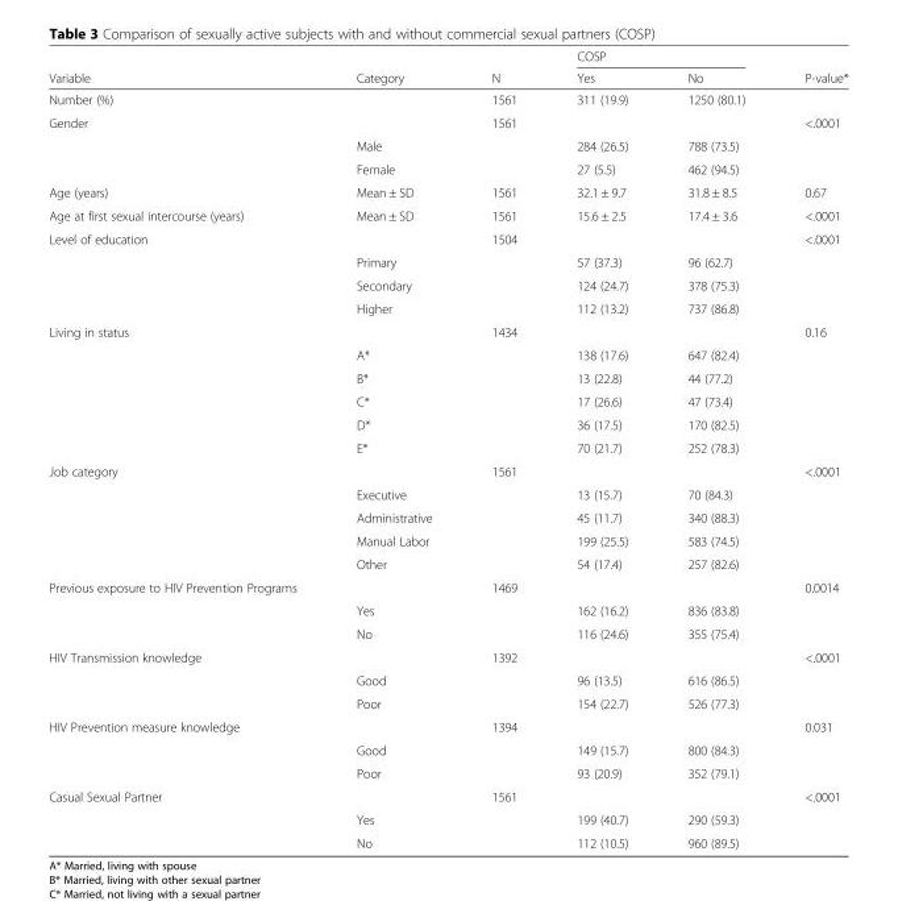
<table><thead><tr><td rowspan="2">Variable</td><td rowspan="2">Category</td><td rowspan="2">N</td><td colspan="2">COSP</td><td rowspan="2">P-value*</td></tr><tr><td>Yes</td><td>No</td></tr></thead><tbody><tr><td>Number (%)</td><td></td><td>1561</td><td>311 (19.9)</td><td>1250 (80.1)</td><td></td></tr><tr><td rowspan="3">Gender</td><td></td><td>1561</td><td></td><td></td><td>&lt;.0001</td></tr><tr><td>Male</td><td></td><td>284 (26.5)</td><td>788 (73.5)</td><td></td></tr><tr><td>Female</td><td></td><td>27 (5.5)</td><td>462 (94.5)</td><td></td></tr><tr><td>Age (years)</td><td>Mean ± SD</td><td>1561</td><td>32.1 ± 9.7</td><td>31.8 ± 8.5</td><td>0.67</td></tr><tr><td>Age at first sexual intercourse (years)</td><td>Mean ± SD</td><td>1561</td><td>15.6 ± 2.5</td><td>17.4 ± 3.6</td><td>&lt;.0001</td></tr><tr><td rowspan="4">Level of education</td><td></td><td>1504</td><td></td><td></td><td>&lt;.0001</td></tr><tr><td>Primary</td><td></td><td>57 (37.3)</td><td>96 (62.7)</td><td></td></tr><tr><td>Secondary</td><td></td><td>124 (24.7)</td><td>378 (75.3)</td><td></td></tr><tr><td>Higher</td><td></td><td>112 (13.2)</td><td>737 (86.8)</td><td></td></tr><tr><td rowspan="6">Living in status</td><td></td><td>1434</td><td></td><td></td><td>0.16</td></tr><tr><td>A*</td><td></td><td>138 (17.6)</td><td>647 (82.4)</td><td></td></tr><tr><td>B*</td><td></td><td>13 (22.8)</td><td>44 (77.2)</td><td></td></tr><tr><td>C*</td><td></td><td>17 (26.6)</td><td>47 (73.4)</td><td></td></tr><tr><td>D*</td><td></td><td>36 (17.5)</td><td>170 (82.5)</td><td></td></tr><tr><td>E*</td><td></td><td>70 (21.7)</td><td>252 (78.3)</td><td></td></tr><tr><td rowspan="5">Job category</td><td></td><td>1561</td><td></td><td></td><td>&lt;.0001</td></tr><tr><td>Executive</td><td></td><td>13 (15.7)</td><td>70 (84.3)</td><td></td></tr><tr><td>Administrative</td><td></td><td>45 (11.7)</td><td>340 (88.3)</td><td></td></tr><tr><td>Manual Labor</td><td></td><td>199 (25.5)</td><td>583 (74.5)</td><td></td></tr><tr><td>Other</td><td></td><td>54 (17.4)</td><td>257 (82.6)</td><td></td></tr><tr><td rowspan="3">Previous exposure to HIV Prevention Programs</td><td></td><td>1469</td><td></td><td></td><td>0.0014</td></tr><tr><td>Yes</td><td></td><td>162 (16.2)</td><td>836 (83.8)</td><td></td></tr><tr><td>No</td><td></td><td>116 (24.6)</td><td>355 (75.4)</td><td></td></tr><tr><td rowspan="3">HIV Transmission knowledge</td><td></td><td>1392</td><td></td><td></td><td>&lt;.0001</td></tr><tr><td>Good</td><td></td><td>96 (13.5)</td><td>616 (86.5)</td><td></td></tr><tr><td>Poor</td><td></td><td>154 (22.7)</td><td>526 (77.3)</td><td></td></tr><tr><td rowspan="3">HIV Prevention measure knowledge</td><td></td><td>1394</td><td></td><td></td><td>0.031</td></tr><tr><td>Good</td><td></td><td>149 (15.7)</td><td>800 (84.3)</td><td></td></tr><tr><td>Poor</td><td></td><td>93 (20.9)</td><td>352 (79.1)</td><td></td></tr><tr><td rowspan="3">Casual Sexual Partner</td><td></td><td>1561</td><td></td><td></td><td>&lt;.0001</td></tr><tr><td>Yes</td><td></td><td>199 (40.7)</td><td>290 (59.3)</td><td></td></tr><tr><td>No</td><td></td><td>112 (10.5)</td><td>960 (89.5)</td><td></td></tr></tbody></table>